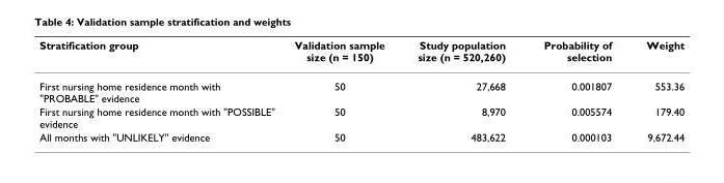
<table><thead><tr><td>Stratification group</td><td>Validation sample size (n = 150)</td><td>Study population size (n = 520,260)</td><td>Probability of selection</td><td>Weight</td></tr></thead><tbody><tr><td>First nursing home residence month with &quot;PROBABLE&quot; evidence</td><td>50</td><td>27,668</td><td>0.001807</td><td>553.36</td></tr><tr><td>First nursing home residence month with &quot;POSSIBLE&quot; evidence</td><td>50</td><td>8,970</td><td>0.005574</td><td>179.40</td></tr><tr><td>All months with &quot;UNLIKELY&quot; evidence</td><td>50</td><td>483,622</td><td>0.000103</td><td>9,672.44</td></tr></tbody></table>